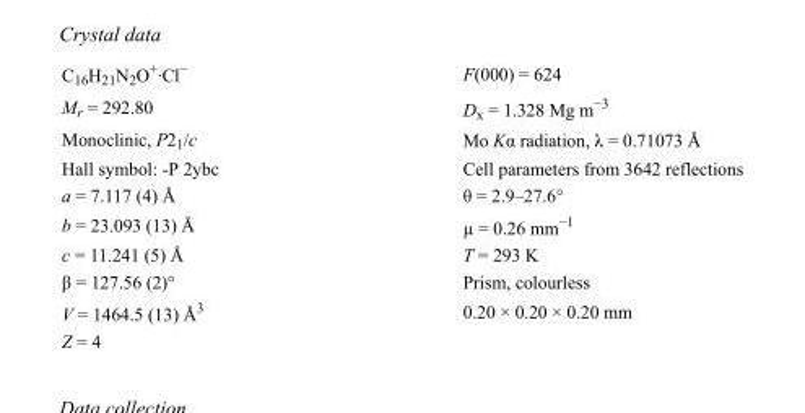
<table><tbody><tr><td>C<sub>16</sub>H<sub>21</sub>N<sub>2</sub>O<sup>+</sup>·Cl<sup>−</sup></td><td>F(000) = 624</td></tr><tr><td>M<sub>r</sub> = 292.80</td><td>D<sub>x</sub> = 1.328 Mg m<sup>−3</sup></td></tr><tr><td>Monoclinic, P2<sub>1</sub>/c</td><td>Mo Kα radiation, λ = 0.71073 Å</td></tr><tr><td>Hall symbol: -P 2ybc</td><td>Cell parameters from 3642 reflections</td></tr><tr><td>a = 7.117 (4) Å</td><td>θ = 2.9–27.6°</td></tr><tr><td>b = 23.093 (13) Å</td><td>µ = 0.26 mm<sup>−1</sup></td></tr><tr><td>c = 11.241 (5) Å</td><td>T = 293 K</td></tr><tr><td>β = 127.56 (2)°</td><td>Prism, colourless</td></tr><tr><td>V = 1464.5 (13) Å<sup>3</sup></td><td>0.20 × 0.20 × 0.20 mm</td></tr><tr><td>Z = 4</td><td></td></tr></tbody></table>